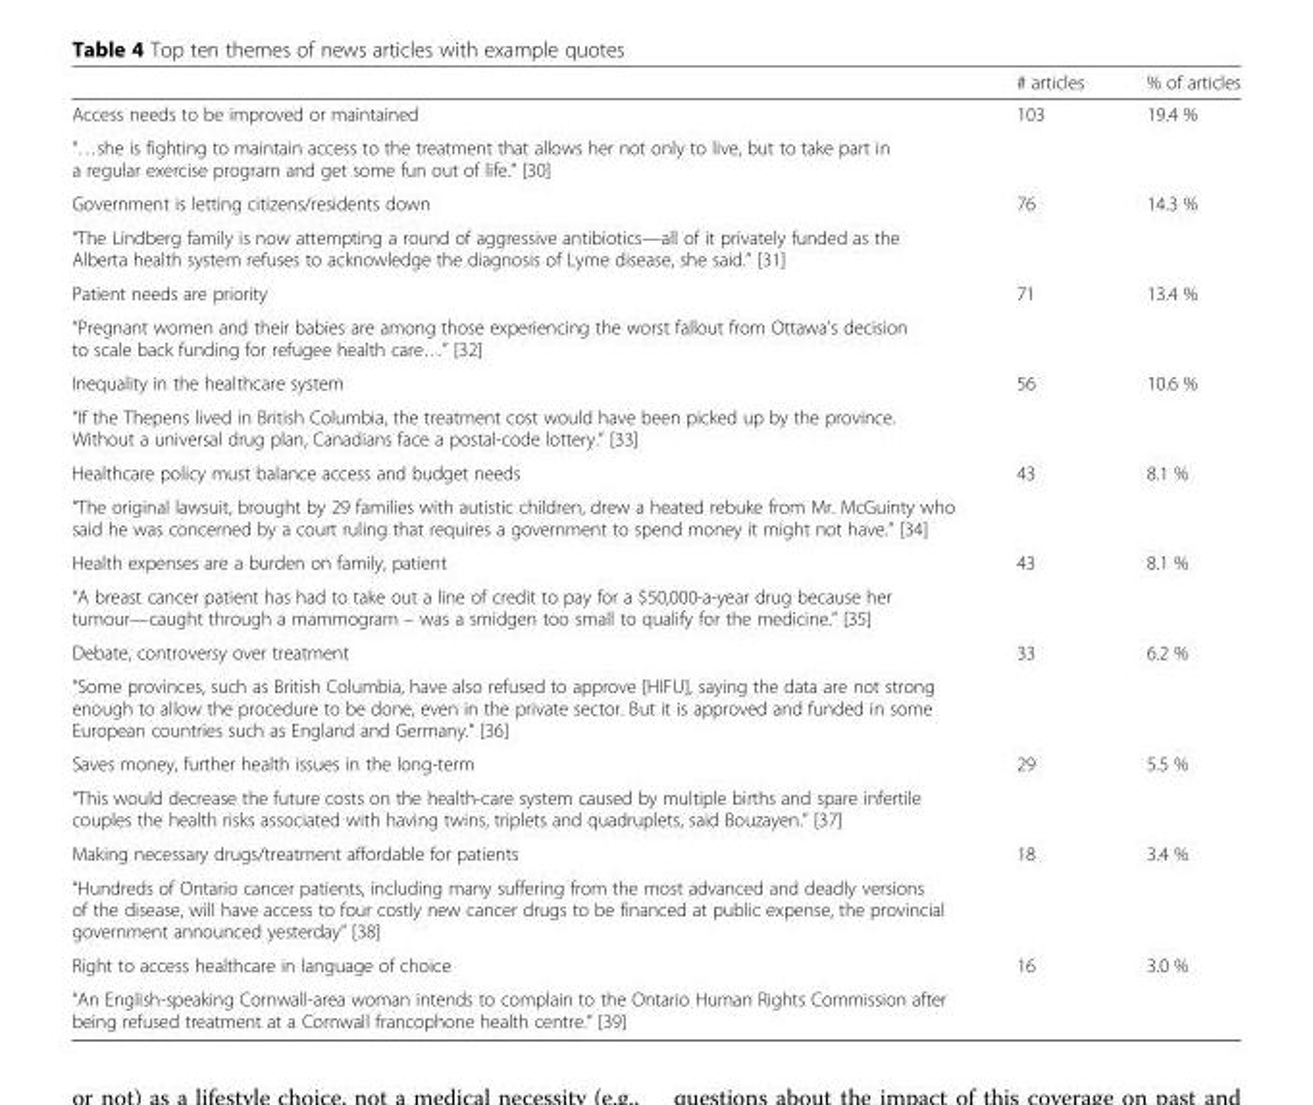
<table><thead><tr><td></td><td># articles</td><td>% of articles</td></tr></thead><tbody><tr><td>Access needs to be improved or maintained</td><td rowspan="2">103</td><td rowspan="2">19.4 %</td></tr><tr><td>“…she is fighting to maintain access to the treatment that allows her not only to live, but to take part in a regular exercise program and get some fun out of life.” [30]</td></tr><tr><td>Government is letting citizens/residents down</td><td rowspan="2">76</td><td rowspan="2">14.3 %</td></tr><tr><td>“The Lindberg family is now attempting a round of aggressive antibiotics—all of it privately funded as the Alberta health system refuses to acknowledge the diagnosis of Lyme disease, she said.” [31]</td></tr><tr><td>Patient needs are priority</td><td rowspan="2">71</td><td rowspan="2">13.4 %</td></tr><tr><td>“Pregnant women and their babies are among those experiencing the worst fallout from Ottawa&#x27;s decision to scale back funding for refugee health care…” [32]</td></tr><tr><td>Inequality in the healthcare system</td><td rowspan="2">56</td><td rowspan="2">10.6 %</td></tr><tr><td>“If the Thepens lived in British Columbia, the treatment cost would have been picked up by the province. Without a universal drug plan, Canadians face a postal-code lottery.” [33]</td></tr><tr><td>Healthcare policy must balance access and budget needs</td><td rowspan="2">43</td><td rowspan="2">8.1 %</td></tr><tr><td>“The original lawsuit, brought by 29 families with autistic children, drew a heated rebuke from Mr. McGuinty who said he was concerned by a court ruling that requires a government to spend money it might not have.” [34]</td></tr><tr><td>Health expenses are a burden on family, patient</td><td rowspan="2">43</td><td rowspan="2">8.1 %</td></tr><tr><td>“A breast cancer patient has had to take out a line of credit to pay for a $50,000-a-year drug because her tumour—caught through a mammogram – was a smidgen too small to qualify for the medicine.” [35]</td></tr><tr><td>Debate, controversy over treatment</td><td rowspan="2">33</td><td rowspan="2">6.2 %</td></tr><tr><td>“Some provinces, such as British Columbia, have also refused to approve [HIFU], saying the data are not strong enough to allow the procedure to be done, even in the private sector. But it is approved and funded in some European countries such as England and Germany.” [36]</td></tr><tr><td>Saves money, further health issues in the long-term</td><td rowspan="2">29</td><td rowspan="2">5.5 %</td></tr><tr><td>“This would decrease the future costs on the health-care system caused by multiple births and spare infertile couples the health risks associated with having twins, triplets and quadruplets, said Bouzayen.” [37]</td></tr><tr><td>Making necessary drugs/treatment affordable for patients</td><td rowspan="2">18</td><td rowspan="2">3.4 %</td></tr><tr><td>“Hundreds of Ontario cancer patients, including many suffering from the most advanced and deadly versions of the disease, will have access to four costly new cancer drugs to be financed at public expense, the provincial government announced yesterday” [38]</td></tr><tr><td>Right to access healthcare in language of choice</td><td rowspan="2">16</td><td rowspan="2">3.0 %</td></tr><tr><td>“An English-speaking Cornwall-area woman intends to complain to the Ontario Human Rights Commission after being refused treatment at a Cornwall francophone health centre.” [39]</td></tr></tbody></table>